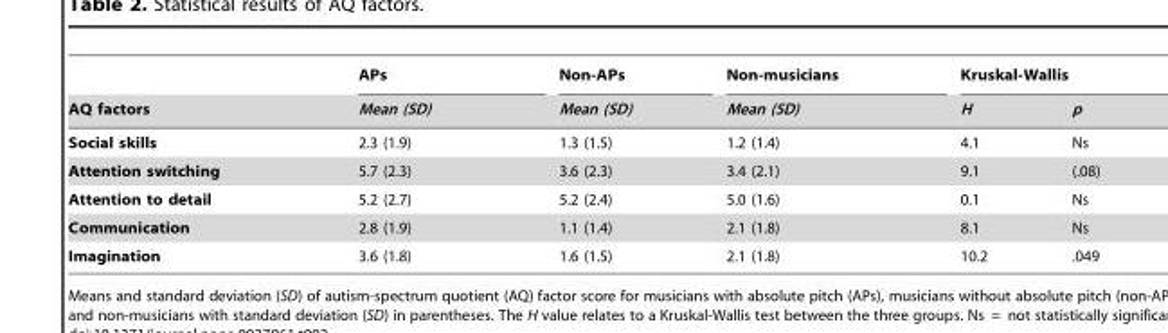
<table><thead><tr><td rowspan="2">AQ factors</td><td rowspan="2">APs Mean (SD)</td><td rowspan="2">Non-APs Mean (SD)</td><td rowspan="2">Non-musicians Mean (SD)</td><td colspan="2">Kruskal-Wallis</td></tr><tr><td>H</td><td>p</td></tr></thead><tbody><tr><td>Social skills</td><td>2.3 (1.9)</td><td>1.3 (1.5)</td><td>1.2 (1.4)</td><td>4.1</td><td>Ns</td></tr><tr><td>Attention switching</td><td>5.7 (2.3)</td><td>3.6 (2.3)</td><td>3.4 (2.1)</td><td>9.1</td><td>(.08)</td></tr><tr><td>Attention to detail</td><td>5.2 (2.7)</td><td>5.2 (2.4)</td><td>5.0 (1.6)</td><td>0.1</td><td>Ns</td></tr><tr><td>Communication</td><td>2.8 (1.9)</td><td>1.1 (1.4)</td><td>2.1 (1.8)</td><td>8.1</td><td>Ns</td></tr><tr><td>Imagination</td><td>3.6 (1.8)</td><td>1.6 (1.5)</td><td>2.1 (1.8)</td><td>10.2</td><td>.049</td></tr></tbody></table>